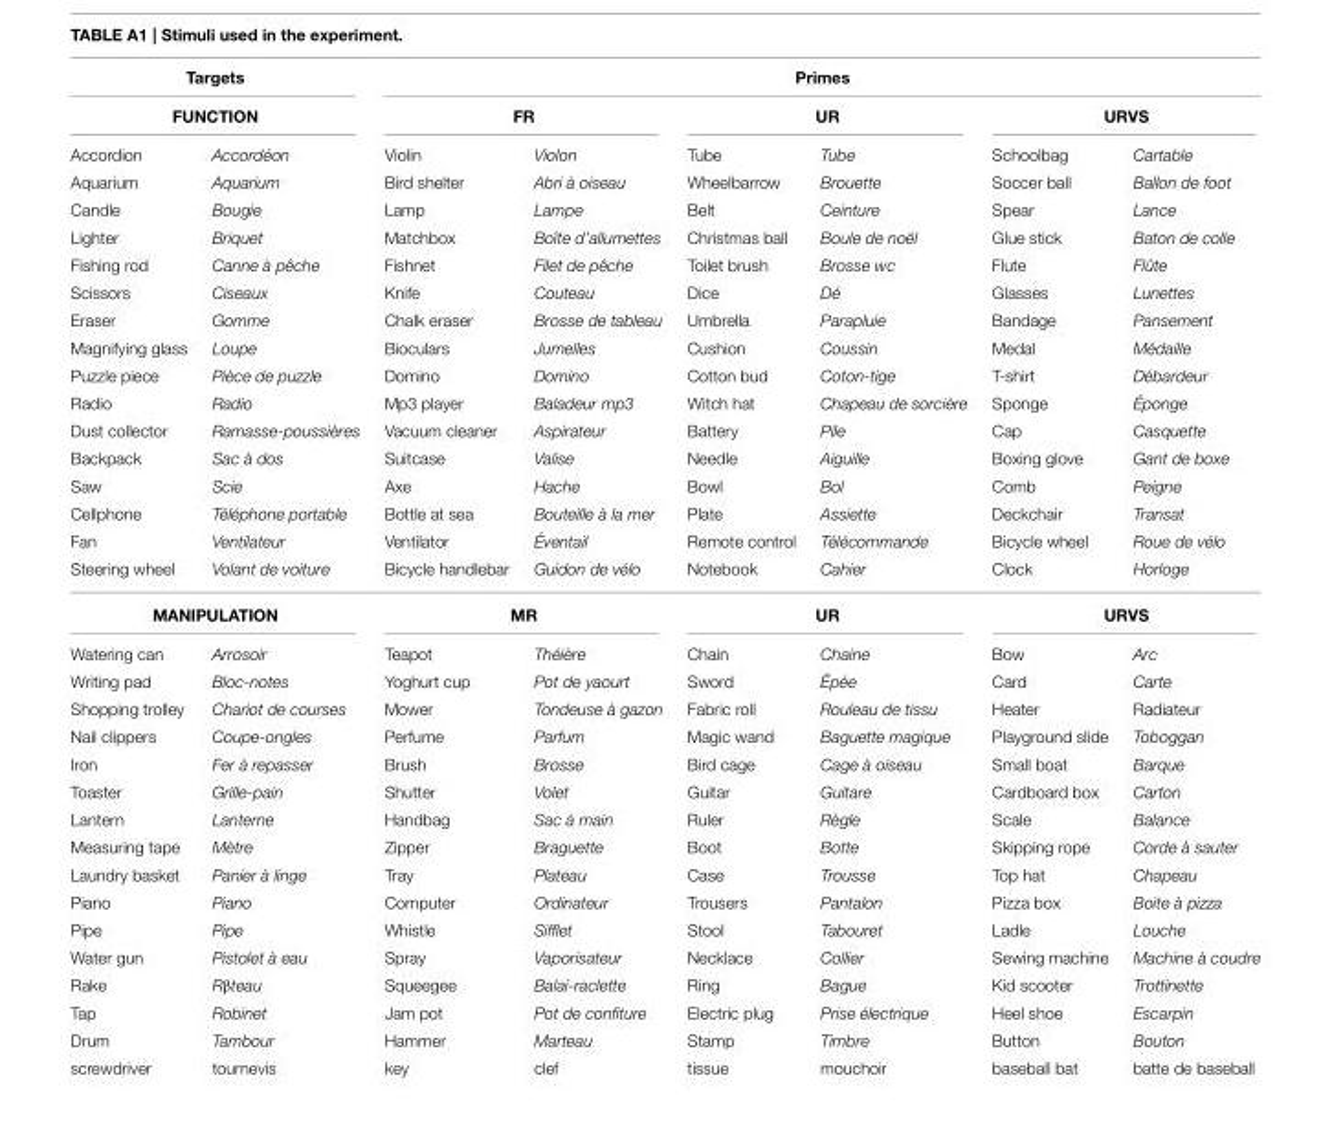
<table><thead><tr><td rowspan="2" colspan="2">Targets FUNCTION</td><td colspan="6">Primes</td></tr><tr><td colspan="2">FR</td><td colspan="2">UR</td><td colspan="2">URVS</td></tr><tr><td rowspan="16">Accordion Aquarium Candle Lighter Fishing rod Scissors Eraser Magnifying glass Puzzle piece Radio Dust collector Backpack Saw Cellphone Fan Steering wheel</td><td rowspan="16">Accordéon Aquarium Bougie Briquet Canne à pêche Ciseaux Gomme Loupe Pièce de puzzle Radio Ramasse-poussières Sac à dos Scie Téléphone portable Ventilateur Volant de voiture</td><td rowspan="16">Violin Bird shelter Lamp Matchbox Fishnet Knife Chalk eraser Bioculars Domino Mp3 player Vacuum cleaner Suitcase Axe Bottle at sea Ventilator Bicycle handlebar</td><td rowspan="16">Violon Abri à oiseau Lampe Boîte d’allumettes Filet de pêche Couteau Brosse de tableau Jumelles Domino Baladeur mp3 Aspirateur Valise Hache Bouteille à la mer Éventail Guidon de vélo</td><td rowspan="16">Tube Wheelbarrow Belt Christmas ball Toilet brush Dice Umbrella Cushion Cotton bud Witch hat Battery Needle Bowl Plate Remote control Notebook</td><td rowspan="16">Tube Brouette Ceinture Boule de noël Brosse wc Dé Parapluie Coussin Coton-tige Chapeau de sorcière Pile Aiguille Bol Assiette Télécommande Cahier</td><td rowspan="16">Schoolbag Soccer ball Spear Glue stick Flute Glasses Bandage Medal T-shirt Sponge Cap Boxing glove Comb Deckchair Bicycle wheel Clock</td><td rowspan="16">Cartable Ballon de foot Lance Baton de colle Flûte Lunettes Pansement Médaille Débardeur Éponge Casquette Gant de boxe Peigne Transat Roue de vélo Horloge</td></tr><tr></tr><tr></tr><tr></tr><tr></tr><tr></tr><tr></tr><tr></tr><tr></tr><tr></tr><tr></tr><tr></tr><tr></tr><tr></tr><tr></tr><tr></tr></thead><tbody><tr><td colspan="2">MANIPULATION</td><td colspan="2">MR</td><td colspan="2">UR</td><td colspan="2">URVS</td></tr><tr><td>Watering can</td><td>Arrosoir</td><td>Teapot</td><td>Théière</td><td>Chain</td><td>Chaine</td><td>Bow</td><td>Arc</td></tr><tr><td>Writing pad</td><td>Bloc-notes</td><td>Yoghurt cup</td><td>Pot de yaourt</td><td>Sword</td><td>Épée</td><td>Card</td><td>Carte</td></tr><tr><td>Shopping trolley</td><td>Chariot de courses</td><td>Mower</td><td>Tondeuse à gazon</td><td>Fabric roll</td><td>Rouleau de tissu</td><td>Heater</td><td>Radiateur</td></tr><tr><td>Nail clippers</td><td>Coupe-ongles</td><td>Perfume</td><td>Parfum</td><td>Magic wand</td><td>Baguette magique</td><td>Playground slide</td><td>Toboggan</td></tr><tr><td>Iron</td><td>Fer à repasser</td><td>Brush</td><td>Brosse</td><td>Bird cage</td><td>Cage à oiseau</td><td>Small boat</td><td>Barque</td></tr><tr><td>Toaster</td><td>Grille-pain</td><td>Shutter</td><td>Volet</td><td>Guitar</td><td>Guitare</td><td>Cardboard box</td><td>Carton</td></tr><tr><td>Lantern</td><td>Lanterne</td><td>Handbag</td><td>Sac à main</td><td>Ruler</td><td>Règle</td><td>Scale</td><td>Balance</td></tr><tr><td>Measuring tape</td><td>Mètre</td><td>Zipper</td><td>Braguette</td><td>Boot</td><td>Botte</td><td>Skipping rope</td><td>Corde à sauter</td></tr><tr><td>Laundry basket</td><td>Panier à linge</td><td>Tray</td><td>Plateau</td><td>Case</td><td>Trousse</td><td>Top hat</td><td>Chapeau</td></tr><tr><td>Piano</td><td>Piano</td><td>Computer</td><td>Ordinateur</td><td>Trousers</td><td>Pantalon</td><td>Pizza box</td><td>Boite à pizza</td></tr><tr><td>Pipe</td><td>Pipe</td><td>Whistle</td><td>Sifflet</td><td>Stool</td><td>Tabouret</td><td>Ladle</td><td>Louche</td></tr><tr><td>Water gun</td><td>Pistolet à eau</td><td>Spray</td><td>Vaporisateur</td><td>Necklace</td><td>Collier</td><td>Sewing machine</td><td>Machine à coudre</td></tr><tr><td>Rake</td><td>Rβteau</td><td>Squeegee</td><td>Balai-raclette</td><td>Ring</td><td>Bague</td><td>Kid scooter</td><td>Trottinette</td></tr><tr><td>Tap</td><td>Robinet</td><td>Jam pot</td><td>Pot de confiture</td><td>Electric plug</td><td>Prise électrique</td><td>Heel shoe</td><td>Escarpin</td></tr><tr><td>Drum</td><td>Tambour</td><td>Hammer</td><td>Marteau</td><td>Stamp</td><td>Timbre</td><td>Button</td><td>Bouton</td></tr><tr><td>screwdriver</td><td>tournevis</td><td>key</td><td>clef</td><td>tissue</td><td>mouchoir</td><td>baseball bat</td><td>batte de baseball</td></tr></tbody></table>